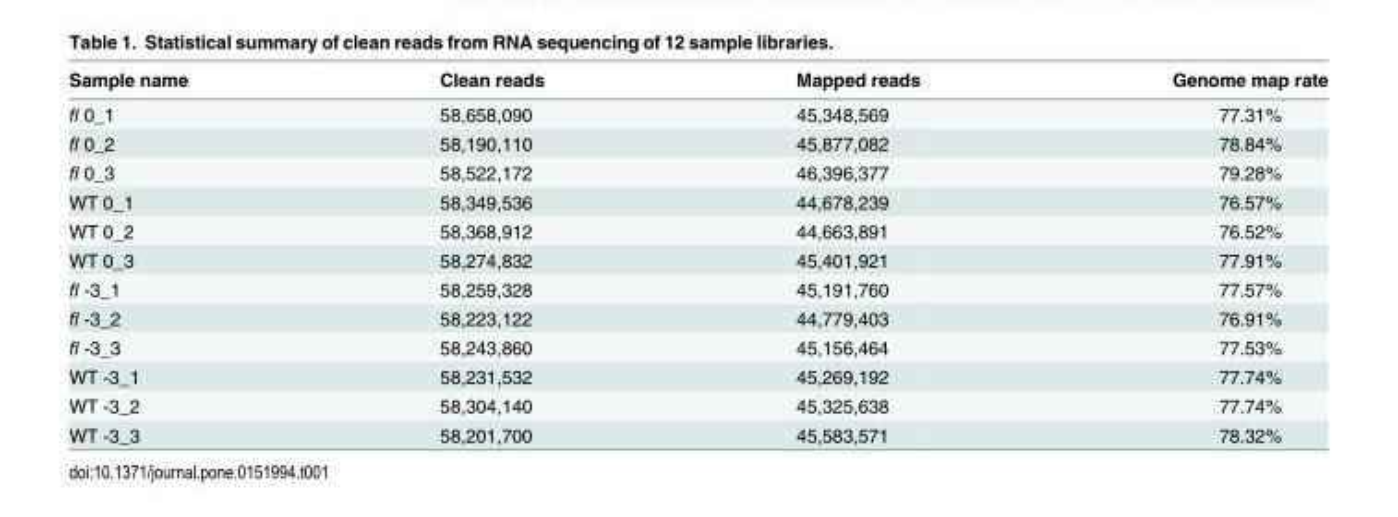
<table><thead><tr><td>Sample name</td><td>Clean reads</td><td>Mapped reads</td><td>Genome map rate</td></tr></thead><tbody><tr><td>fl 0_1</td><td>58,658,090</td><td>45,348,569</td><td>77.31%</td></tr><tr><td>fl 0_2</td><td>58,190,110</td><td>45,877,082</td><td>78.84%</td></tr><tr><td>fl 0_3</td><td>58,522,172</td><td>46,396,377</td><td>79.28%</td></tr><tr><td>WT 0_1</td><td>58,349,536</td><td>44,678,239</td><td>76.57%</td></tr><tr><td>WT 0_2</td><td>58,368,912</td><td>44,663,891</td><td>76.52%</td></tr><tr><td>WT 0_3</td><td>58,274,832</td><td>45,401,921</td><td>77.91%</td></tr><tr><td>fl -3_1</td><td>58,259,328</td><td>45,191,760</td><td>77.57%</td></tr><tr><td>fl -3_2</td><td>58,223,122</td><td>44,779,403</td><td>76.91%</td></tr><tr><td>fl -3_3</td><td>58,243,860</td><td>45,156,464</td><td>77.53%</td></tr><tr><td>WT -3_1</td><td>58,231,532</td><td>45,269,192</td><td>77.74%</td></tr><tr><td>WT -3_2</td><td>58,304,140</td><td>45,325,638</td><td>77.74%</td></tr><tr><td>WT -3_3</td><td>58,201,700</td><td>45,583,571</td><td>78.32%</td></tr></tbody></table>